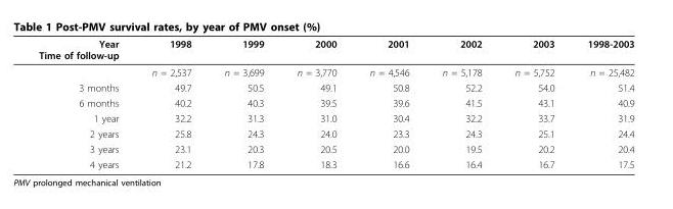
<table><thead><tr><td>Year Time of follow-up</td><td>1998</td><td>1999</td><td>2000</td><td>2001</td><td>2002</td><td>2003</td><td>1998-2003</td></tr></thead><tbody><tr><td></td><td>n = 2,537</td><td>n = 3,699</td><td>n = 3,770</td><td>n = 4,546</td><td>n = 5,178</td><td>n = 5,752</td><td>n = 25,482</td></tr><tr><td>3 months</td><td>49.7</td><td>50.5</td><td>49.1</td><td>50.8</td><td>52.2</td><td>54.0</td><td>51.4</td></tr><tr><td>6 months</td><td>40.2</td><td>40.3</td><td>39.5</td><td>39.6</td><td>41.5</td><td>43.1</td><td>40.9</td></tr><tr><td>1 year</td><td>32.2</td><td>31.3</td><td>31.0</td><td>30.4</td><td>32.2</td><td>33.7</td><td>31.9</td></tr><tr><td>2 years</td><td>25.8</td><td>24.3</td><td>24.0</td><td>23.3</td><td>24.3</td><td>25.1</td><td>24.4</td></tr><tr><td>3 years</td><td>23.1</td><td>20.3</td><td>20.5</td><td>20.0</td><td>19.5</td><td>20.2</td><td>20.4</td></tr><tr><td>4 years</td><td>21.2</td><td>17.8</td><td>18.3</td><td>16.6</td><td>16.4</td><td>16.7</td><td>17.5</td></tr></tbody></table>